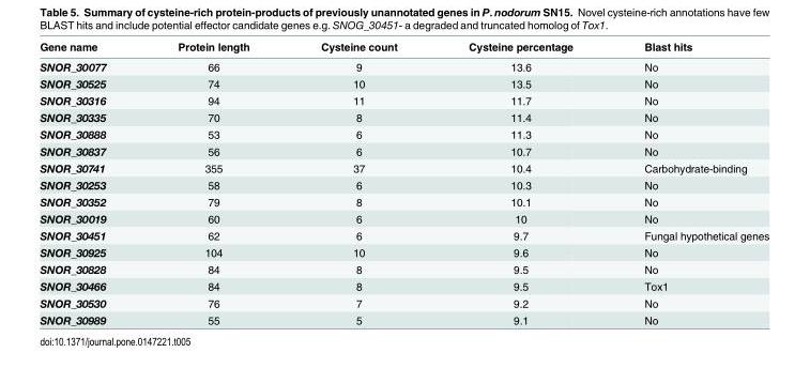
<table><thead><tr><td>Gene name</td><td>Protein length</td><td>Cysteine count</td><td>Cysteine percentage</td><td>Blast hits</td></tr></thead><tbody><tr><td>SNOR_30077</td><td>66</td><td>9</td><td>13.6</td><td>No</td></tr><tr><td>SNOR_30525</td><td>74</td><td>10</td><td>13.5</td><td>No</td></tr><tr><td>SNOR_30316</td><td>94</td><td>11</td><td>11.7</td><td>No</td></tr><tr><td>SNOR_30335</td><td>70</td><td>8</td><td>11.4</td><td>No</td></tr><tr><td>SNOR_30888</td><td>53</td><td>6</td><td>11.3</td><td>No</td></tr><tr><td>SNOR_30837</td><td>56</td><td>6</td><td>10.7</td><td>No</td></tr><tr><td>SNOR_30741</td><td>355</td><td>37</td><td>10.4</td><td>Carbohydrate-binding</td></tr><tr><td>SNOR_30253</td><td>58</td><td>6</td><td>10.3</td><td>No</td></tr><tr><td>SNOR_30352</td><td>79</td><td>8</td><td>10.1</td><td>No</td></tr><tr><td>SNOR_30019</td><td>60</td><td>6</td><td>10</td><td>No</td></tr><tr><td>SNOR_30451</td><td>62</td><td>6</td><td>9.7</td><td>Fungal hypothetical genes</td></tr><tr><td>SNOR_30925</td><td>104</td><td>10</td><td>9.6</td><td>No</td></tr><tr><td>SNOR_30828</td><td>84</td><td>8</td><td>9.5</td><td>No</td></tr><tr><td>SNOR_30466</td><td>84</td><td>8</td><td>9.5</td><td>Tox1</td></tr><tr><td>SNOR_30530</td><td>76</td><td>7</td><td>9.2</td><td>No</td></tr><tr><td>SNOR_30989</td><td>55</td><td>5</td><td>9.1</td><td>No</td></tr></tbody></table>